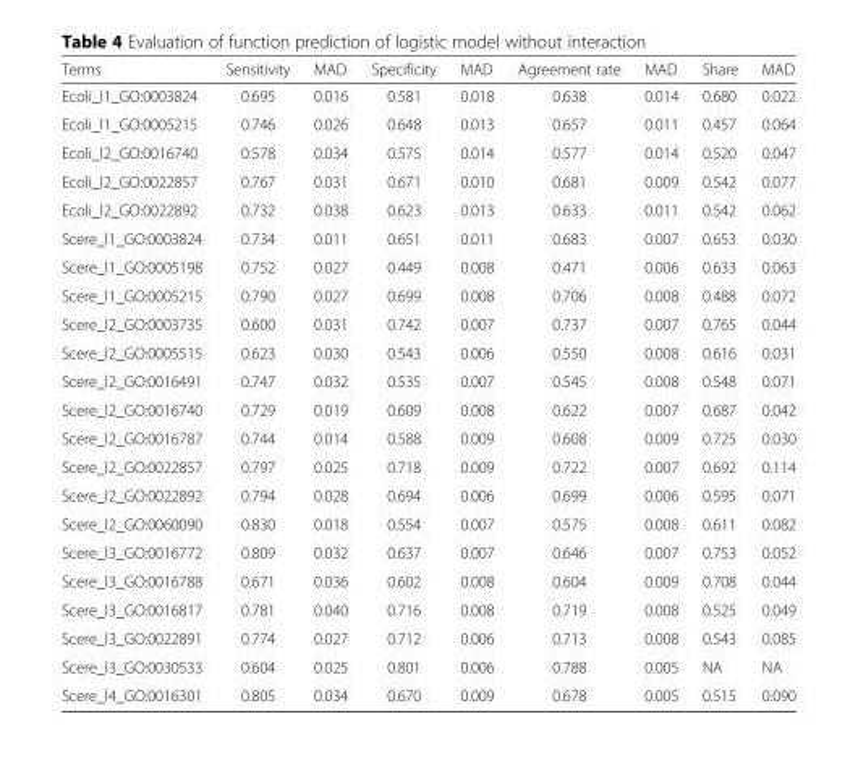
<table><thead><tr><td>Terms</td><td>Sensitivity</td><td>MAD</td><td>Specificity</td><td>MAD</td><td>Agreement rate</td><td>MAD</td><td>Share</td><td>MAD</td></tr></thead><tbody><tr><td>Ecoli_l1_GO:0003824</td><td>0.695</td><td>0.016</td><td>0.581</td><td>0.018</td><td>0.638</td><td>0.014</td><td>0.680</td><td>0.022</td></tr><tr><td>Ecoli_l1_GO:0005215</td><td>0.746</td><td>0.026</td><td>0.648</td><td>0.013</td><td>0.657</td><td>0.011</td><td>0.457</td><td>0.064</td></tr><tr><td>Ecoli_l2_GO:0016740</td><td>0.578</td><td>0.034</td><td>0.575</td><td>0.014</td><td>0.577</td><td>0.014</td><td>0.520</td><td>0.047</td></tr><tr><td>Ecoli_l2_GO:0022857</td><td>0.767</td><td>0.031</td><td>0.671</td><td>0.010</td><td>0.681</td><td>0.009</td><td>0.542</td><td>0.077</td></tr><tr><td>Ecoli_l2_GO:0022892</td><td>0.732</td><td>0.038</td><td>0.623</td><td>0.013</td><td>0.633</td><td>0.011</td><td>0.542</td><td>0.062</td></tr><tr><td>Scere_l1_GO:0003824</td><td>0.734</td><td>0.011</td><td>0.651</td><td>0.011</td><td>0.683</td><td>0.007</td><td>0.653</td><td>0.030</td></tr><tr><td>Scere_l1_GO:0005198</td><td>0.752</td><td>0.027</td><td>0.449</td><td>0.008</td><td>0.471</td><td>0.006</td><td>0.633</td><td>0.063</td></tr><tr><td>Scere_l1_GO:0005215</td><td>0.790</td><td>0.027</td><td>0.699</td><td>0.008</td><td>0.706</td><td>0.008</td><td>0.488</td><td>0.072</td></tr><tr><td>Scere_l2_GO:0003735</td><td>0.600</td><td>0.031</td><td>0.742</td><td>0.007</td><td>0.737</td><td>0.007</td><td>0.765</td><td>0.044</td></tr><tr><td>Scere_l2_GO:0005515</td><td>0.623</td><td>0.030</td><td>0.543</td><td>0.006</td><td>0.550</td><td>0.008</td><td>0.616</td><td>0.031</td></tr><tr><td>Scere_l2_GO:0016491</td><td>0.747</td><td>0.032</td><td>0.535</td><td>0.007</td><td>0.545</td><td>0.008</td><td>0.548</td><td>0.071</td></tr><tr><td>Scere_l2_GO:0016740</td><td>0.729</td><td>0.019</td><td>0.609</td><td>0.008</td><td>0.622</td><td>0.007</td><td>0.687</td><td>0.042</td></tr><tr><td>Scere_l2_GO:0016787</td><td>0.744</td><td>0.014</td><td>0.588</td><td>0.009</td><td>0.608</td><td>0.009</td><td>0.725</td><td>0.030</td></tr><tr><td>Scere_l2_GO:0022857</td><td>0.797</td><td>0.025</td><td>0.718</td><td>0.009</td><td>0.722</td><td>0.007</td><td>0.692</td><td>0.114</td></tr><tr><td>Scere_l2_GO:0022892</td><td>0.794</td><td>0.028</td><td>0.694</td><td>0.006</td><td>0.699</td><td>0.006</td><td>0.595</td><td>0.071</td></tr><tr><td>Scere_l2_GO:0060090</td><td>0.830</td><td>0.018</td><td>0.554</td><td>0.007</td><td>0.575</td><td>0.008</td><td>0.611</td><td>0.082</td></tr><tr><td>Scere_l3_GO:0016772</td><td>0.809</td><td>0.032</td><td>0.637</td><td>0.007</td><td>0.646</td><td>0.007</td><td>0.753</td><td>0.052</td></tr><tr><td>Scere_l3_GO:0016788</td><td>0.671</td><td>0.036</td><td>0.602</td><td>0.008</td><td>0.604</td><td>0.009</td><td>0.708</td><td>0.044</td></tr><tr><td>Scere_l3_GO:0016817</td><td>0.781</td><td>0.040</td><td>0.716</td><td>0.008</td><td>0.719</td><td>0.008</td><td>0.525</td><td>0.049</td></tr><tr><td>Scere_l3_GO:0022891</td><td>0.774</td><td>0.027</td><td>0.712</td><td>0.006</td><td>0.713</td><td>0.008</td><td>0.543</td><td>0.085</td></tr><tr><td>Scere_l3_GO:0030533</td><td>0.604</td><td>0.025</td><td>0.801</td><td>0.006</td><td>0.788</td><td>0.005</td><td>NA</td><td>NA</td></tr><tr><td>Scere_l4_GO:0016301</td><td>0.805</td><td>0.034</td><td>0.670</td><td>0.009</td><td>0.678</td><td>0.005</td><td>0.515</td><td>0.090</td></tr></tbody></table>